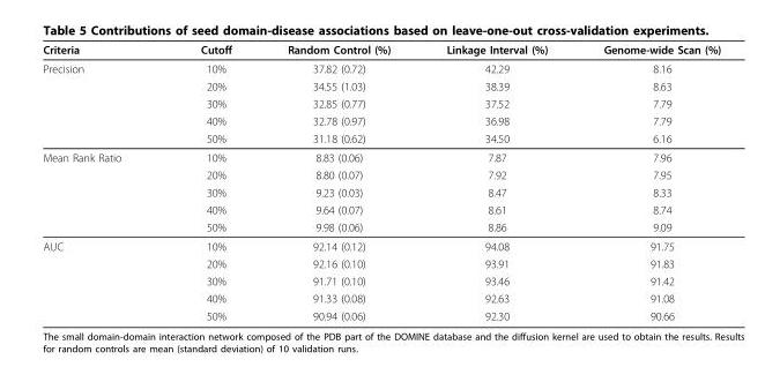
<table><thead><tr><td>Criteria</td><td>Cutoff</td><td>Random Control (%)</td><td>Linkage Interval (%)</td><td>Genome-wide Scan (%)</td></tr></thead><tbody><tr><td rowspan="5">Precision</td><td>10%</td><td>37.82 (0.72)</td><td>42.29</td><td>8.16</td></tr><tr><td>20%</td><td>34.55 (1.03)</td><td>38.39</td><td>8.63</td></tr><tr><td>30%</td><td>32.85 (0.77)</td><td>37.52</td><td>7.79</td></tr><tr><td>40%</td><td>32.78 (0.97)</td><td>36.98</td><td>7.79</td></tr><tr><td>50%</td><td>31.18 (0.62)</td><td>34.50</td><td>6.16</td></tr><tr><td rowspan="5">Mean Rank Ratio</td><td>10%</td><td>8.83 (0.06)</td><td>7.87</td><td>7.96</td></tr><tr><td>20%</td><td>8.80 (0.07)</td><td>7.92</td><td>7.95</td></tr><tr><td>30%</td><td>9.23 (0.03)</td><td>8.47</td><td>8.33</td></tr><tr><td>40%</td><td>9.64 (0.07)</td><td>8.61</td><td>8.74</td></tr><tr><td>50%</td><td>9.98 (0.06)</td><td>8.86</td><td>9.09</td></tr><tr><td rowspan="5">AUC</td><td>10%</td><td>92.14 (0.12)</td><td>94.08</td><td>91.75</td></tr><tr><td>20%</td><td>92.16 (0.10)</td><td>93.91</td><td>91.83</td></tr><tr><td>30%</td><td>91.71 (0.10)</td><td>93.46</td><td>91.42</td></tr><tr><td>40%</td><td>91.33 (0.08)</td><td>92.63</td><td>91.08</td></tr><tr><td>50%</td><td>90.94 (0.06)</td><td>92.30</td><td>90.66</td></tr></tbody></table>